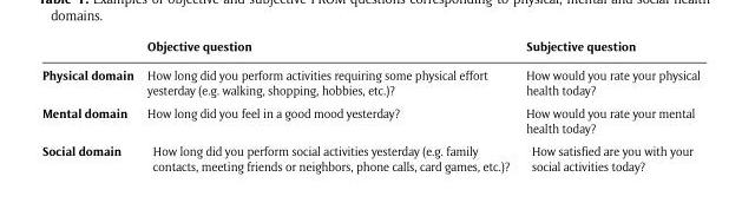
<table><thead><tr><td></td><td>Objective question</td><td>Subjective question</td></tr></thead><tbody><tr><td>Physical domain</td><td>How long did you perform activities requiring some physical effort yesterday (e.g. walking, shopping, hobbies, etc.)?</td><td>How would you rate your physical health today?</td></tr><tr><td>Mental domain</td><td>How long did you feel in a good mood yesterday?</td><td>How would you rate your mental health today?</td></tr><tr><td>Social domain</td><td>How long did you perform social activities yesterday (e.g. family contacts, meeting friends or neighbors, phone calls, card games, etc.)?</td><td>How satisfied are you with your social activities today?</td></tr></tbody></table>